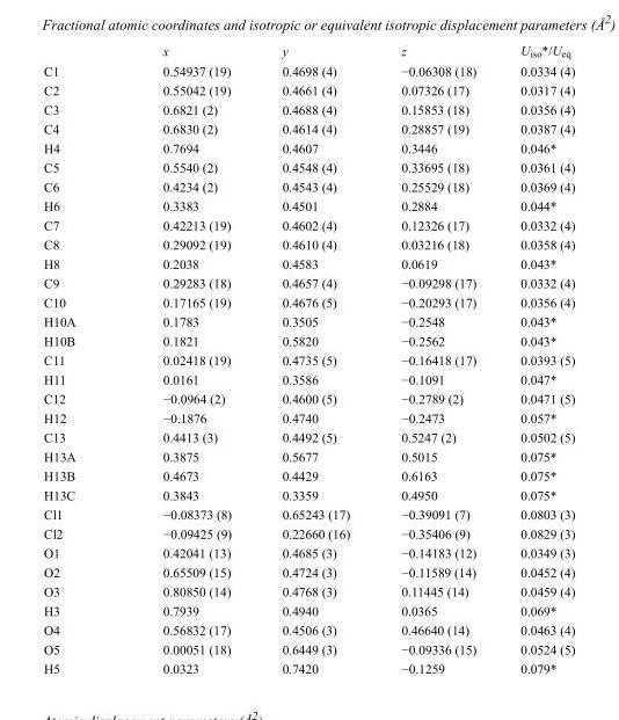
<table><thead><tr><td></td><td>x</td><td>y</td><td>z</td><td>U<sub>iso</sub>*/U<sub>eq</sub></td></tr></thead><tbody><tr><td>C1</td><td>0.54937 (19)</td><td>0.4698 (4)</td><td>−0.06308 (18)</td><td>0.0334 (4)</td></tr><tr><td>C2</td><td>0.55042 (19)</td><td>0.4661 (4)</td><td>0.07326 (17)</td><td>0.0317 (4)</td></tr><tr><td>C3</td><td>0.6821 (2)</td><td>0.4688 (4)</td><td>0.15853 (18)</td><td>0.0356 (4)</td></tr><tr><td>C4</td><td>0.6830 (2)</td><td>0.4614 (4)</td><td>0.28857 (19)</td><td>0.0387 (4)</td></tr><tr><td>H4</td><td>0.7694</td><td>0.4607</td><td>0.3446</td><td>0.046*</td></tr><tr><td>C5</td><td>0.5540 (2)</td><td>0.4548 (4)</td><td>0.33695 (18)</td><td>0.0361 (4)</td></tr><tr><td>C6</td><td>0.4234 (2)</td><td>0.4543 (4)</td><td>0.25529 (18)</td><td>0.0369 (4)</td></tr><tr><td>H6</td><td>0.3383</td><td>0.4501</td><td>0.2884</td><td>0.044*</td></tr><tr><td>C7</td><td>0.42213 (19)</td><td>0.4602 (4)</td><td>0.12326 (17)</td><td>0.0332 (4)</td></tr><tr><td>C8</td><td>0.29092 (19)</td><td>0.4610 (4)</td><td>0.03216 (18)</td><td>0.0358 (4)</td></tr><tr><td>H8</td><td>0.2038</td><td>0.4583</td><td>0.0619</td><td>0.043*</td></tr><tr><td>C9</td><td>0.29283 (18)</td><td>0.4657 (4)</td><td>−0.09298 (17)</td><td>0.0332 (4)</td></tr><tr><td>C10</td><td>0.17165 (19)</td><td>0.4676 (5)</td><td>−0.20293 (17)</td><td>0.0356 (4)</td></tr><tr><td>H10A</td><td>0.1783</td><td>0.3505</td><td>−0.2548</td><td>0.043*</td></tr><tr><td>H10B</td><td>0.1821</td><td>0.5820</td><td>−0.2562</td><td>0.043*</td></tr><tr><td>C11</td><td>0.02418 (19)</td><td>0.4735 (5)</td><td>−0.16418 (17)</td><td>0.0393 (5)</td></tr><tr><td>H11</td><td>0.0161</td><td>0.3586</td><td>−0.1091</td><td>0.047*</td></tr><tr><td>C12</td><td>−0.0964 (2)</td><td>0.4600 (5)</td><td>−0.2789 (2)</td><td>0.0471 (5)</td></tr><tr><td>H12</td><td>−0.1876</td><td>0.4740</td><td>−0.2473</td><td>0.057*</td></tr><tr><td>C13</td><td>0.4413 (3)</td><td>0.4492 (5)</td><td>0.5247 (2)</td><td>0.0502 (5)</td></tr><tr><td>H13A</td><td>0.3875</td><td>0.5677</td><td>0.5015</td><td>0.075*</td></tr><tr><td>H13B</td><td>0.4673</td><td>0.4429</td><td>0.6163</td><td>0.075*</td></tr><tr><td>H13C</td><td>0.3843</td><td>0.3359</td><td>0.4950</td><td>0.075*</td></tr><tr><td>Cl1</td><td>−0.08373 (8)</td><td>0.65243 (17)</td><td>−0.39091 (7)</td><td>0.0803 (3)</td></tr><tr><td>Cl2</td><td>−0.09425 (9)</td><td>0.22660 (16)</td><td>−0.35406 (9)</td><td>0.0829 (3)</td></tr><tr><td>O1</td><td>0.42041 (13)</td><td>0.4685 (3)</td><td>−0.14183 (12)</td><td>0.0349 (3)</td></tr><tr><td>O2</td><td>0.65509 (15)</td><td>0.4724 (3)</td><td>−0.11589 (14)</td><td>0.0452 (4)</td></tr><tr><td>O3</td><td>0.80850 (14)</td><td>0.4768 (3)</td><td>0.11445 (14)</td><td>0.0459 (4)</td></tr><tr><td>H3</td><td>0.7939</td><td>0.4940</td><td>0.0365</td><td>0.069*</td></tr><tr><td>O4</td><td>0.56832 (17)</td><td>0.4506 (3)</td><td>0.46640 (14)</td><td>0.0463 (4)</td></tr><tr><td>O5</td><td>0.00051 (18)</td><td>0.6449 (3)</td><td>−0.09336 (15)</td><td>0.0524 (5)</td></tr><tr><td>H5</td><td>0.0323</td><td>0.7420</td><td>−0.1259</td><td>0.079*</td></tr></tbody></table>